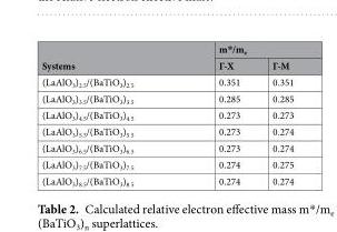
<table><thead><tr><td rowspan="2">Systems</td><td colspan="2">m*/m<sub>e</sub></td></tr><tr><td>Г-X</td><td>Г-M</td></tr></thead><tbody><tr><td>(LaAlO<sub>3</sub>)<sub>2.5</sub>/(BaTiO<sub>3</sub>)<sub>2.5</sub></td><td>0.351</td><td>0.351</td></tr><tr><td>(LaAlO<sub>3</sub>)<sub>3.5</sub>/(BaTiO<sub>3</sub>)<sub>3.5</sub></td><td>0.285</td><td>0.285</td></tr><tr><td>(LaAlO<sub>3</sub>)<sub>4.5</sub>/(BaTiO<sub>3</sub>)<sub>4.5</sub></td><td>0.273</td><td>0.273</td></tr><tr><td>(LaAlO<sub>3</sub>)<sub>5.5</sub>/(BaTiO<sub>3</sub>)<sub>5.5</sub></td><td>0.273</td><td>0.274</td></tr><tr><td>(LaAlO<sub>3</sub>)<sub>6.5</sub>/(BaTiO<sub>3</sub>)<sub>6.5</sub></td><td>0.273</td><td>0.274</td></tr><tr><td>(LaAlO<sub>3</sub>)<sub>7.5</sub>/(BaTiO<sub>3</sub>)<sub>7.5</sub></td><td>0.274</td><td>0.275</td></tr><tr><td>(LaAlO<sub>3</sub>)<sub>8.5</sub>/(BaTiO<sub>3</sub>)<sub>8.5</sub></td><td>0.274</td><td>0.274</td></tr></tbody></table>